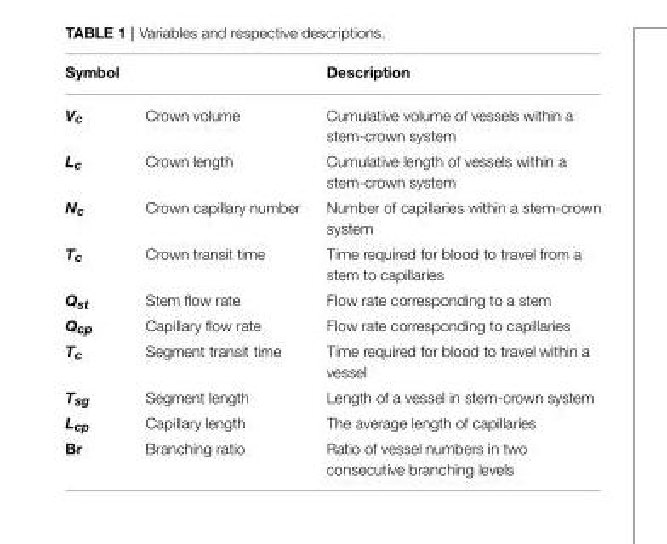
<table><thead><tr><td>Symbol</td><td></td><td>Description</td></tr></thead><tbody><tr><td>Vc</td><td>Crown volume</td><td>Cumulative volume of vessels within a stem-crown system</td></tr><tr><td>Lc</td><td>Crown length</td><td>Cumulative length of vessels within a stem-crown system</td></tr><tr><td>Nc</td><td>Crown capillary number</td><td>Number of capillaries within a stem-crown system</td></tr><tr><td>Tc</td><td>Crown transit time</td><td>Time required for blood to travel from a stem to capillaries</td></tr><tr><td>Qst</td><td>Stem flow rate</td><td>Flow rate corresponding to a stem</td></tr><tr><td>Qcp</td><td>Capillary flow rate</td><td>Flow rate corresponding to capillaries</td></tr><tr><td>Tc</td><td>Segment transit time</td><td>Time required for blood to travel within a vessel</td></tr><tr><td>Tsg</td><td>Segment length</td><td>Length of a vessel in stem-crown system</td></tr><tr><td>Lcp</td><td>Capillary length</td><td>The average length of capillaries</td></tr><tr><td>Br</td><td>Branching ratio</td><td>Ratio of vessel numbers in two consecutive branching levels</td></tr></tbody></table>